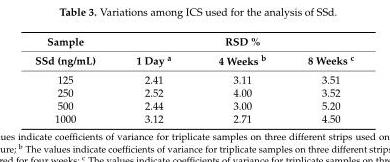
<table><thead><tr><td rowspan="2">Sample SSd (ng/mL)</td><td colspan="3">RSD %</td></tr><tr><td>1 Day <sup>a</sup></td><td>4 Weeks <sup>b</sup></td><td>8 Weeks <sup>c</sup></td></tr></thead><tbody><tr><td>125</td><td>2.41</td><td>3.11</td><td>3.51</td></tr><tr><td>250</td><td>2.52</td><td>4.00</td><td>3.52</td></tr><tr><td>500</td><td>2.44</td><td>3.00</td><td>5.20</td></tr><tr><td>1000</td><td>3.12</td><td>2.71</td><td>4.50</td></tr></tbody></table>